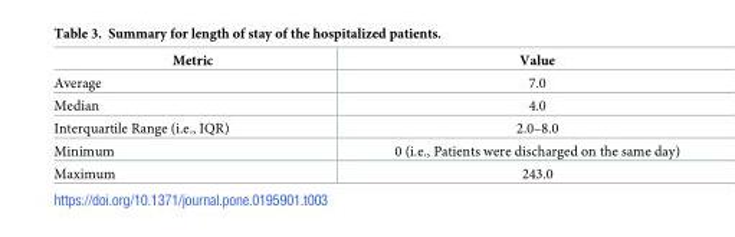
<table><thead><tr><td>Metric</td><td>Value</td></tr></thead><tbody><tr><td>Average</td><td>7.0</td></tr><tr><td>Median</td><td>4.0</td></tr><tr><td>Interquartile Range (i.e., IQR)</td><td>2.0–8.0</td></tr><tr><td>Minimum</td><td>0 (i.e., Patients were discharged on the same day)</td></tr><tr><td>Maximum</td><td>243.0</td></tr></tbody></table>